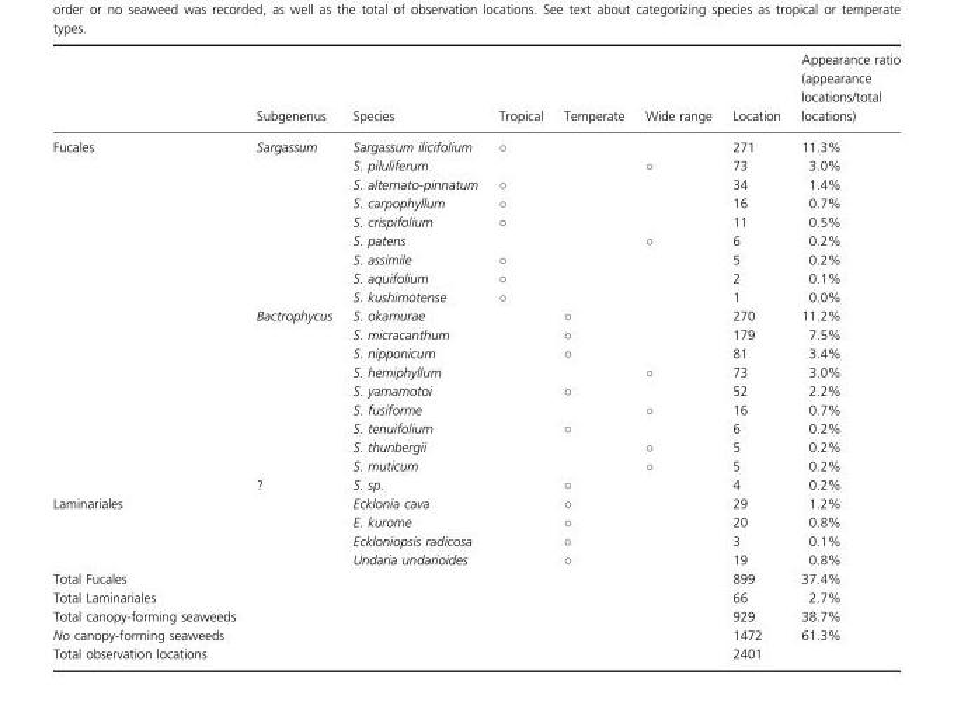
<table><thead><tr><td></td><td>Subgenenus</td><td>Species</td><td>Tropical</td><td>Temperate</td><td>Wide range</td><td>Location</td><td>Appearance ratio (appearance locations/total locations)</td></tr></thead><tbody><tr><td rowspan="19">Fucales</td><td>Sargassum</td><td>Sargassum ilicifolium</td><td>○</td><td></td><td></td><td>271</td><td>11.3%</td></tr><tr><td></td><td>S. piluliferum</td><td></td><td></td><td>○</td><td>73</td><td>3.0%</td></tr><tr><td></td><td>S. alternato-pinnatum</td><td>○</td><td></td><td></td><td>34</td><td>1.4%</td></tr><tr><td></td><td>S. carpophyllum</td><td>○</td><td></td><td></td><td>16</td><td>0.7%</td></tr><tr><td></td><td>S. crispifolium</td><td>○</td><td></td><td></td><td>11</td><td>0.5%</td></tr><tr><td></td><td>S. patens</td><td></td><td></td><td>○</td><td>6</td><td>0.2%</td></tr><tr><td></td><td>S. assimile</td><td>○</td><td></td><td></td><td>5</td><td>0.2%</td></tr><tr><td></td><td>S. aquifolium</td><td>○</td><td></td><td></td><td>2</td><td>0.1%</td></tr><tr><td></td><td>S. kushimotense</td><td>○</td><td></td><td></td><td>1</td><td>0.0%</td></tr><tr><td>Bactrophycus</td><td>S. okamurae</td><td></td><td>○</td><td></td><td>270</td><td>11.2%</td></tr><tr><td></td><td>S. micracanthum</td><td></td><td>○</td><td></td><td>179</td><td>7.5%</td></tr><tr><td></td><td>S. nipponicum</td><td></td><td>○</td><td></td><td>81</td><td>3.4%</td></tr><tr><td></td><td>S. hemiphyllum</td><td></td><td></td><td>○</td><td>73</td><td>3.0%</td></tr><tr><td></td><td>S. yamamotoi</td><td></td><td>○</td><td></td><td>52</td><td>2.2%</td></tr><tr><td></td><td>S. fusiforme</td><td></td><td></td><td>○</td><td>16</td><td>0.7%</td></tr><tr><td></td><td>S. tenuifolium</td><td></td><td>○</td><td></td><td>6</td><td>0.2%</td></tr><tr><td></td><td>S. thunbergii</td><td></td><td></td><td>○</td><td>5</td><td>0.2%</td></tr><tr><td></td><td>S. muticum</td><td></td><td></td><td>○</td><td>5</td><td>0.2%</td></tr><tr><td>?</td><td>S. sp.</td><td></td><td>○</td><td></td><td>4</td><td>0.2%</td></tr><tr><td rowspan="4">Laminariales</td><td></td><td>Ecklonia cava</td><td></td><td>○</td><td></td><td>29</td><td>1.2%</td></tr><tr><td></td><td>E. kurome</td><td></td><td>○</td><td></td><td>20</td><td>0.8%</td></tr><tr><td></td><td>Eckloniopsis radicosa</td><td></td><td>○</td><td></td><td>3</td><td>0.1%</td></tr><tr><td></td><td>Undaria undarioides</td><td></td><td>○</td><td></td><td>19</td><td>0.8%</td></tr><tr><td>Total Fucales</td><td></td><td></td><td></td><td></td><td></td><td>899</td><td>37.4%</td></tr><tr><td>Total Laminariales</td><td></td><td></td><td></td><td></td><td></td><td>66</td><td>2.7%</td></tr><tr><td>Total canopy-forming seaweeds</td><td></td><td></td><td></td><td></td><td></td><td>929</td><td>38.7%</td></tr><tr><td>No canopy-forming seaweeds</td><td></td><td></td><td></td><td></td><td></td><td>1472</td><td>61.3%</td></tr><tr><td>Total observation locations</td><td></td><td></td><td></td><td></td><td></td><td>2401</td><td></td></tr></tbody></table>